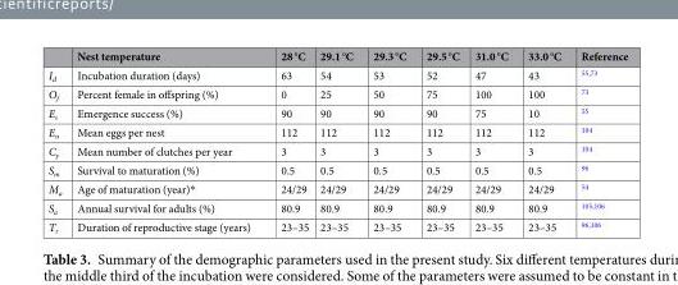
<table><thead><tr><td></td><td>Nest temperature</td><td>28 °C</td><td>29.1 °C</td><td>29.3 °C</td><td>29.5 °C</td><td>31.0 °C</td><td>33.0 °C</td><td>Reference</td></tr></thead><tbody><tr><td>I<sub>d</sub></td><td>Incubation duration (days)</td><td>63</td><td>54</td><td>53</td><td>52</td><td>47</td><td>43</td><td><sup>55,73</sup></td></tr><tr><td>O<sub>f</sub></td><td>Percent female in offspring (%)</td><td>0</td><td>25</td><td>50</td><td>75</td><td>100</td><td>100</td><td><sup>73</sup></td></tr><tr><td>E<sub>s</sub></td><td>Emergence success (%)</td><td>90</td><td>90</td><td>90</td><td>90</td><td>75</td><td>10</td><td><sup>55</sup></td></tr><tr><td>E<sub>n</sub></td><td>Mean eggs per nest</td><td>112</td><td>112</td><td>112</td><td>112</td><td>112</td><td>112</td><td><sup>104</sup></td></tr><tr><td>C<sub>y</sub></td><td>Mean number of clutches per year</td><td>3</td><td>3</td><td>3</td><td>3</td><td>3</td><td>3</td><td><sup>104</sup></td></tr><tr><td>S<sub>m</sub></td><td>Survival to maturation (%)</td><td>0.5</td><td>0.5</td><td>0.5</td><td>0.5</td><td>0.5</td><td>0.5</td><td><sup>96</sup></td></tr><tr><td>M<sub>a</sub></td><td>Age of maturation (year)*</td><td>24/29</td><td>24/29</td><td>24/29</td><td>24/29</td><td>24/29</td><td>24/29</td><td><sup>54</sup></td></tr><tr><td>S<sub>a</sub></td><td>Annual survival for adults (%)</td><td>80.9</td><td>80.9</td><td>80.9</td><td>80.9</td><td>80.9</td><td>80.9</td><td><sup>105,106</sup></td></tr><tr><td>T<sub>r</sub></td><td>Duration of reproductive stage (years)</td><td>23–35</td><td>23–35</td><td>23–35</td><td>23–35</td><td>23–35</td><td>23–35</td><td><sup>96,106</sup></td></tr></tbody></table>